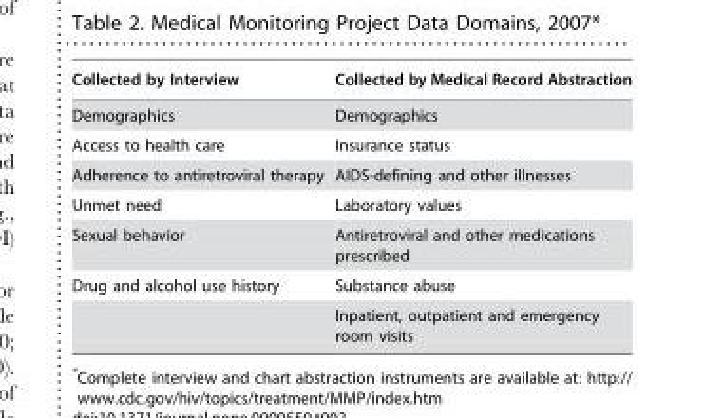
<table><thead><tr><td>Collected by Interview</td><td>Collected by Medical Record Abstraction</td></tr></thead><tbody><tr><td>Demographics</td><td>Demographics</td></tr><tr><td>Access to health care</td><td>Insurance status</td></tr><tr><td>Adherence to antiretroviral therapy</td><td>AIDS-defining and other illnesses</td></tr><tr><td>Unmet need</td><td>Laboratory values</td></tr><tr><td>Sexual behavior</td><td>Antiretroviral and other medications prescribed</td></tr><tr><td rowspan="2">Drug and alcohol use history</td><td>Substance abuse</td></tr><tr><td>Inpatient, outpatient and emergency room visits</td></tr></tbody></table>